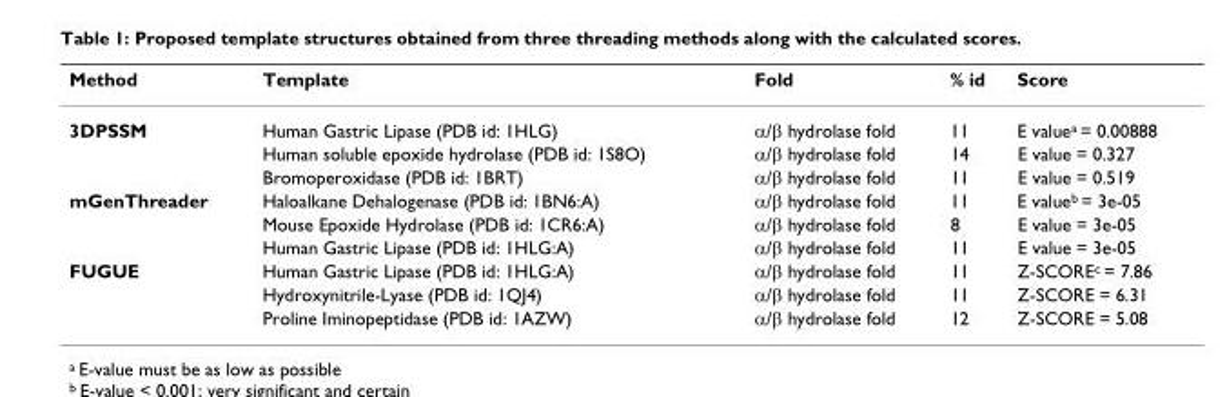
<table><thead><tr><td>Method</td><td>Template</td><td>Fold</td><td>% id</td><td>Score</td></tr></thead><tbody><tr><td rowspan="3">3DPSSM</td><td>Human Gastric Lipase (PDB id: 1HLG)</td><td>α/β hydrolase fold</td><td>11</td><td>E valuea = 0.00888</td></tr><tr><td>Human soluble epoxide hydrolase (PDB id: 1S8O)</td><td>α/β hydrolase fold</td><td>14</td><td>E value = 0.327</td></tr><tr><td>Bromoperoxidase (PDB id: 1BRT)</td><td>α/β hydrolase fold</td><td>11</td><td>E value = 0.519</td></tr><tr><td rowspan="3">mGenThreader</td><td>Haloalkane Dehalogenase (PDB id: 1BN6:A)</td><td>α/β hydrolase fold</td><td>11</td><td>E valueb = 3e-05</td></tr><tr><td>Mouse Epoxide Hydrolase (PDB id: 1CR6:A)</td><td>α/β hydrolase fold</td><td>8</td><td>E value = 3e-05</td></tr><tr><td>Human Gastric Lipase (PDB id: 1HLG:A)</td><td>α/β hydrolase fold</td><td>11</td><td>E value = 3e-05</td></tr><tr><td rowspan="3">FUGUE</td><td>Human Gastric Lipase (PDB id: 1HLG:A)</td><td>α/β hydrolase fold</td><td>11</td><td>Z-SCOREc = 7.86</td></tr><tr><td>Hydroxynitrile-Lyase (PDB id: 1QJ4)</td><td>α/β hydrolase fold</td><td>11</td><td>Z-SCORE = 6.31</td></tr><tr><td>Proline Iminopeptidase (PDB id: 1AZW)</td><td>α/β hydrolase fold</td><td>12</td><td>Z-SCORE = 5.08</td></tr></tbody></table>